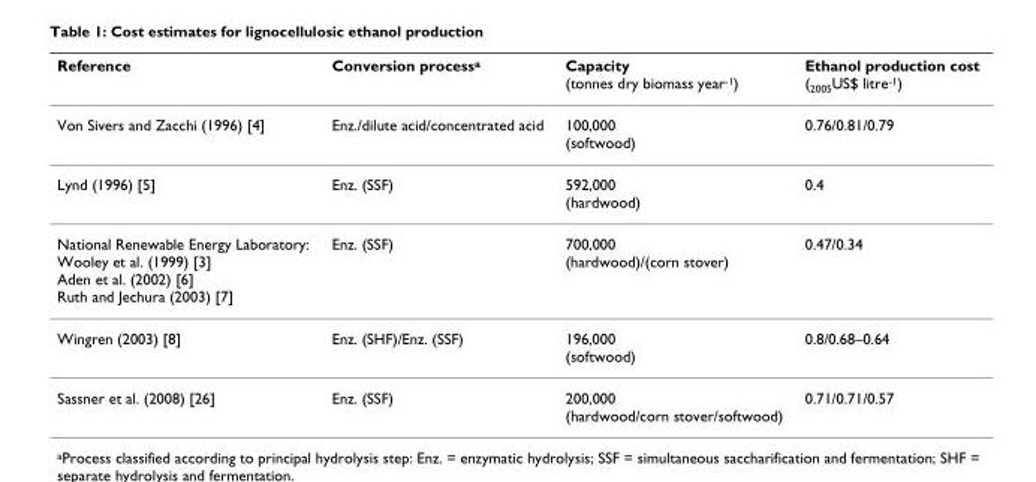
<table><thead><tr><td>Reference</td><td>Conversion process<sup>a</sup></td><td>Capacity (tonnes dry biomass year<sup>-1</sup>)</td><td>Ethanol production cost (<sub>2005</sub>US$ litre<sup>-1</sup>)</td></tr></thead><tbody><tr><td>Von Sivers and Zacchi (1996) [4]</td><td>Enz./dilute acid/concentrated acid</td><td>100,000 (softwood)</td><td>0.76/0.81/0.79</td></tr><tr><td>Lynd (1996) [5]</td><td>Enz. (SSF)</td><td>592,000 (hardwood)</td><td>0.4</td></tr><tr><td>National Renewable Energy Laboratory: Wooley et al. (1999) [3] Aden et al. (2002) [6] Ruth and Jechura (2003) [7]</td><td>Enz. (SSF)</td><td>700,000 (hardwood)/(corn stover)</td><td>0.47/0.34</td></tr><tr><td>Wingren (2003) [8]</td><td>Enz. (SHF)/Enz. (SSF)</td><td>196,000 (softwood)</td><td>0.8/0.68–0.64</td></tr><tr><td>Sassner et al. (2008) [26]</td><td>Enz. (SSF)</td><td>200,000 (hardwood/corn stover/softwood)</td><td>0.71/0.71/0.57</td></tr></tbody></table>